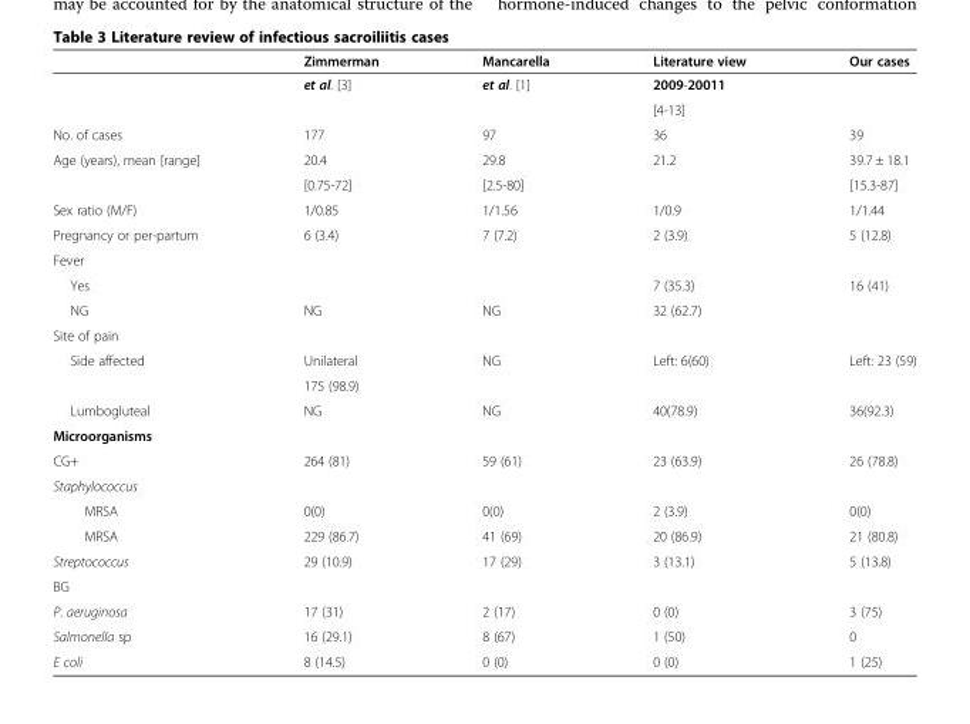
<table><thead><tr><td></td><td>Zimmerman</td><td>Mancarella</td><td>Literature view</td><td>Our cases</td></tr></thead><tbody><tr><td></td><td>et al. [3]</td><td>et al. [1]</td><td>2009-20011</td><td></td></tr><tr><td></td><td></td><td></td><td>[4-13]</td><td></td></tr><tr><td>No. of cases</td><td>177</td><td>97</td><td>36</td><td>39</td></tr><tr><td rowspan="2">Age (years), mean [range]</td><td>20.4</td><td>29.8</td><td>21.2</td><td>39.7 ± 18.1</td></tr><tr><td>[0.75-72]</td><td>[2.5-80]</td><td></td><td>[15.3-87]</td></tr><tr><td>Sex ratio (M/F)</td><td>1/0.85</td><td>1/1.56</td><td>1/0.9</td><td>1/1.44</td></tr><tr><td>Pregnancy or per-partum</td><td>6 (3.4)</td><td>7 (7.2)</td><td>2 (3.9)</td><td>5 (12.8)</td></tr><tr><td colspan="5">Fever</td></tr><tr><td>Yes</td><td></td><td></td><td>7 (35.3)</td><td>16 (41)</td></tr><tr><td>NG</td><td>NG</td><td>NG</td><td>32 (62.7)</td><td></td></tr><tr><td colspan="5">Site of pain</td></tr><tr><td rowspan="2">Side affected</td><td>Unilateral</td><td>NG</td><td>Left: 6(60)</td><td>Left: 23 (59)</td></tr><tr><td>175 (98.9)</td><td></td><td></td><td></td></tr><tr><td>Lumbogluteal</td><td>NG</td><td>NG</td><td>40(78.9)</td><td>36(92.3)</td></tr><tr><td colspan="5">Microorganisms</td></tr><tr><td>CG+</td><td>264 (81)</td><td>59 (61)</td><td>23 (63.9)</td><td>26 (78.8)</td></tr><tr><td colspan="5">Staphylococcus</td></tr><tr><td>MRSA</td><td>0(0)</td><td>0(0)</td><td>2 (3.9)</td><td>0(0)</td></tr><tr><td>MRSA</td><td>229 (86.7)</td><td>41 (69)</td><td>20 (86.9)</td><td>21 (80.8)</td></tr><tr><td>Streptococcus</td><td>29 (10.9)</td><td>17 (29)</td><td>3 (13.1)</td><td>5 (13.8)</td></tr><tr><td colspan="5">BG</td></tr><tr><td>P. aeruginosa</td><td>17 (31)</td><td>2 (17)</td><td>0 (0)</td><td>3 (75)</td></tr><tr><td>Salmonella sp</td><td>16 (29.1)</td><td>8 (67)</td><td>1 (50)</td><td>0</td></tr><tr><td>E coli</td><td>8 (14.5)</td><td>0 (0)</td><td>0 (0)</td><td>1 (25)</td></tr></tbody></table>